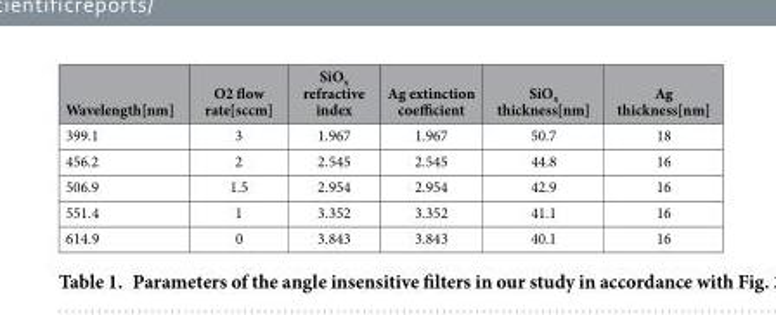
<table><thead><tr><td>Wavelength[nm]</td><td>O2 flow rate[sccm]</td><td>SiO<sub>x</sub> refractive index</td><td>Ag extinction coefficient</td><td>SiO<sub>x</sub> thickness[nm]</td><td>Ag thickness[nm]</td></tr></thead><tbody><tr><td>399.1</td><td>3</td><td>1.967</td><td>1.967</td><td>50.7</td><td>18</td></tr><tr><td>456.2</td><td>2</td><td>2.545</td><td>2.545</td><td>44.8</td><td>16</td></tr><tr><td>506.9</td><td>1.5</td><td>2.954</td><td>2.954</td><td>42.9</td><td>16</td></tr><tr><td>551.4</td><td>1</td><td>3.352</td><td>3.352</td><td>41.1</td><td>16</td></tr><tr><td>614.9</td><td>0</td><td>3.843</td><td>3.843</td><td>40.1</td><td>16</td></tr></tbody></table>